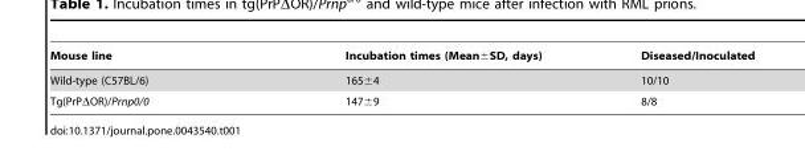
<table><thead><tr><td>Mouse line</td><td>Incubation times (Mean±SD, days)</td><td>Diseased/Inoculated</td></tr></thead><tbody><tr><td>Wild-type (C57BL/6)</td><td>165±4</td><td>10/10</td></tr><tr><td>Tg(PrPΔOR)/Prnp0/0</td><td>147±9</td><td>8/8</td></tr></tbody></table>